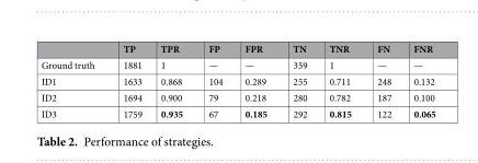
<table><thead><tr><td></td><td>TP</td><td>TPR</td><td>FP</td><td>FPR</td><td>TN</td><td>TNR</td><td>FN</td><td>FNR</td></tr></thead><tbody><tr><td>Ground truth</td><td>1881</td><td>1</td><td>—</td><td>—</td><td>359</td><td>1</td><td>—</td><td>—</td></tr><tr><td>ID1</td><td>1633</td><td>0.868</td><td>104</td><td>0.289</td><td>255</td><td>0.711</td><td>248</td><td>0.132</td></tr><tr><td>ID2</td><td>1694</td><td>0.900</td><td>79</td><td>0.218</td><td>280</td><td>0.782</td><td>187</td><td>0.100</td></tr><tr><td>ID3</td><td>1759</td><td>0.935</td><td>67</td><td>0.185</td><td>292</td><td>0.815</td><td>122</td><td>0.065</td></tr></tbody></table>